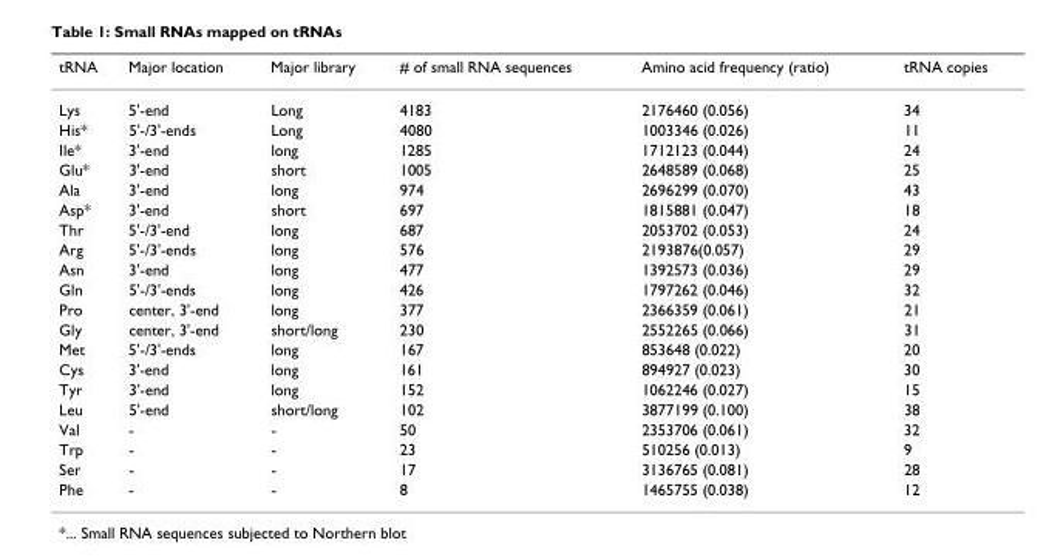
<table><thead><tr><td>tRNA</td><td>Major location</td><td>Major library</td><td># of small RNA sequences</td><td>Amino acid frequency (ratio)</td><td>tRNA copies</td></tr></thead><tbody><tr><td>Lys</td><td>5&#x27;-end</td><td>Long</td><td>4183</td><td>2176460 (0.056)</td><td>34</td></tr><tr><td>His*</td><td>5&#x27;-/3&#x27;-ends</td><td>Long</td><td>4080</td><td>1003346 (0.026)</td><td>11</td></tr><tr><td>Ile*</td><td>3&#x27;-end</td><td>long</td><td>1285</td><td>1712123 (0.044)</td><td>24</td></tr><tr><td>Glu*</td><td>3&#x27;-end</td><td>short</td><td>1005</td><td>2648589 (0.068)</td><td>25</td></tr><tr><td>Ala</td><td>3&#x27;-end</td><td>long</td><td>974</td><td>2696299 (0.070)</td><td>43</td></tr><tr><td>Asp*</td><td>3&#x27;-end</td><td>short</td><td>697</td><td>1815881 (0.047)</td><td>18</td></tr><tr><td>Thr</td><td>5&#x27;-/3&#x27;-end</td><td>long</td><td>687</td><td>2053702 (0.053)</td><td>24</td></tr><tr><td>Arg</td><td>5&#x27;-/3&#x27;-ends</td><td>long</td><td>576</td><td>2193876(0.057)</td><td>29</td></tr><tr><td>Asn</td><td>3&#x27;-end</td><td>long</td><td>477</td><td>1392573 (0.036)</td><td>29</td></tr><tr><td>Gln</td><td>5&#x27;-/3&#x27;-ends</td><td>long</td><td>426</td><td>1797262 (0.046)</td><td>32</td></tr><tr><td>Pro</td><td>center, 3&#x27;-end</td><td>long</td><td>377</td><td>2366359 (0.061)</td><td>21</td></tr><tr><td>Gly</td><td>center, 3&#x27;-end</td><td>short/long</td><td>230</td><td>2552265 (0.066)</td><td>31</td></tr><tr><td>Met</td><td>5&#x27;-/3&#x27;-ends</td><td>long</td><td>167</td><td>853648 (0.022)</td><td>20</td></tr><tr><td>Cys</td><td>3&#x27;-end</td><td>long</td><td>161</td><td>894927 (0.023)</td><td>30</td></tr><tr><td>Tyr</td><td>3&#x27;-end</td><td>long</td><td>152</td><td>1062246 (0.027)</td><td>15</td></tr><tr><td>Leu</td><td>5&#x27;-end</td><td>short/long</td><td>102</td><td>3877199 (0.100)</td><td>38</td></tr><tr><td>Val</td><td>-</td><td>-</td><td>50</td><td>2353706 (0.061)</td><td>32</td></tr><tr><td>Trp</td><td>-</td><td>-</td><td>23</td><td>510256 (0.013)</td><td>9</td></tr><tr><td>Ser</td><td>-</td><td>-</td><td>17</td><td>3136765 (0.081)</td><td>28</td></tr><tr><td>Phe</td><td>-</td><td>-</td><td>8</td><td>1465755 (0.038)</td><td>12</td></tr></tbody></table>